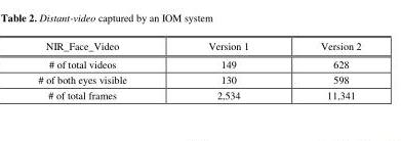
<table><thead><tr><td>NIR_Face_Video</td><td>Version 1</td><td>Version 2</td></tr></thead><tbody><tr><td># of total videos</td><td>149</td><td>628</td></tr><tr><td># of both eyes visible</td><td>130</td><td>598</td></tr><tr><td># of total frames</td><td>2,534</td><td>11,341</td></tr></tbody></table>